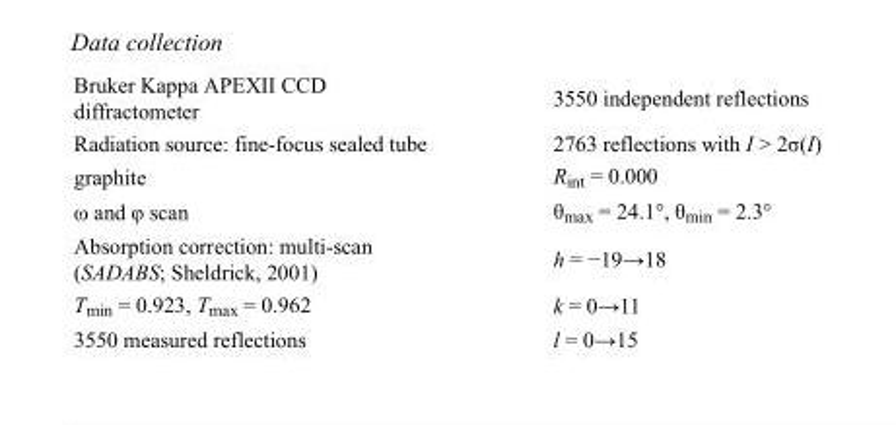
<table><tbody><tr><td>Bruker Kappa APEXII CCD diffractometer</td><td>3550 independent reflections</td></tr><tr><td>Radiation source: fine-focus sealed tube</td><td>2763 reflections with I &gt; 2σ(I)</td></tr><tr><td>graphite</td><td>R<sub>int</sub> = 0.000</td></tr><tr><td>ω and φ scan</td><td>θ<sub>max</sub> = 24.1°, θ<sub>min</sub> = 2.3°</td></tr><tr><td>Absorption correction: multi-scan (SADABS; Sheldrick, 2001)</td><td>h = −19→18</td></tr><tr><td>T<sub>min</sub> = 0.923, T<sub>max</sub> = 0.962</td><td>k = 0→11</td></tr><tr><td>3550 measured reflections</td><td>l = 0→15</td></tr></tbody></table>